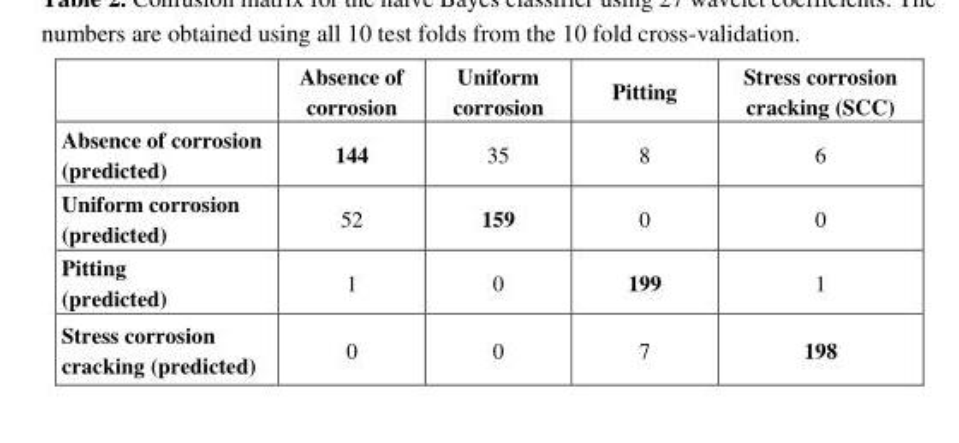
<table><thead><tr><td></td><td>Absence of corrosion</td><td>Uniform corrosion</td><td>Pitting</td><td>Stress corrosion cracking (SCC)</td></tr></thead><tbody><tr><td>Absence of corrosion (predicted)</td><td>144</td><td>35</td><td>8</td><td>6</td></tr><tr><td>Uniform corrosion (predicted)</td><td>52</td><td>159</td><td>0</td><td>0</td></tr><tr><td>Pitting (predicted)</td><td>1</td><td>0</td><td>199</td><td>1</td></tr><tr><td>Stress corrosion cracking (predicted)</td><td>0</td><td>0</td><td>7</td><td>198</td></tr></tbody></table>